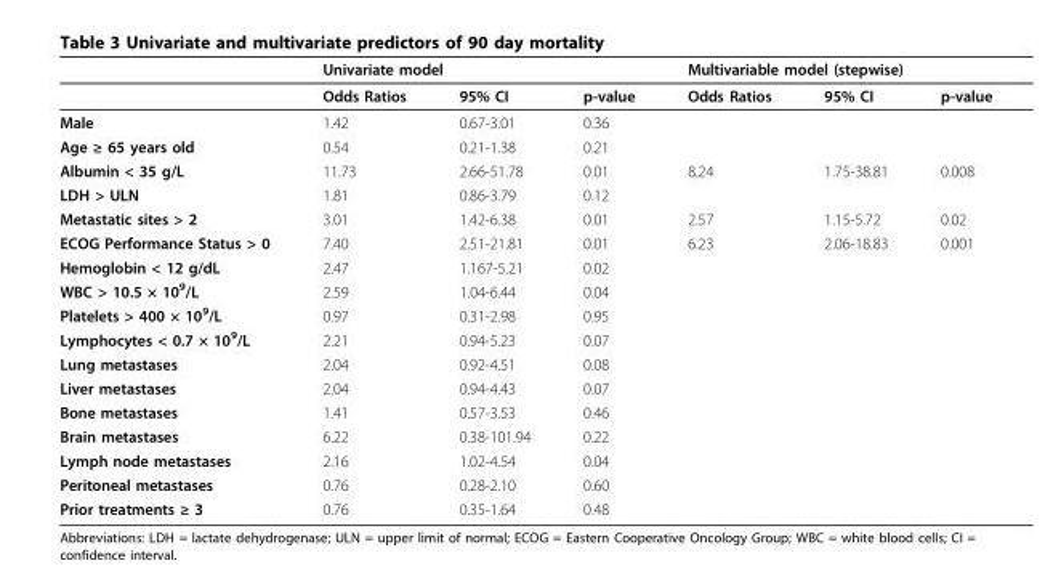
<table><thead><tr><td rowspan="2"></td><td colspan="3">Univariate model</td><td colspan="3">Multivariable model (stepwise)</td></tr><tr><td>Odds Ratios</td><td>95% CI</td><td>p-value</td><td>Odds Ratios</td><td>95% CI</td><td>p-value</td></tr></thead><tbody><tr><td>Male</td><td>1.42</td><td>0.67-3.01</td><td>0.36</td><td></td><td></td><td></td></tr><tr><td>Age ≥ 65 years old</td><td>0.54</td><td>0.21-1.38</td><td>0.21</td><td></td><td></td><td></td></tr><tr><td>Albumin &lt; 35 g/L</td><td>11.73</td><td>2.66-51.78</td><td>0.01</td><td>8.24</td><td>1.75-38.81</td><td>0.008</td></tr><tr><td>LDH &gt; ULN</td><td>1.81</td><td>0.86-3.79</td><td>0.12</td><td></td><td></td><td></td></tr><tr><td>Metastatic sites &gt; 2</td><td>3.01</td><td>1.42-6.38</td><td>0.01</td><td>2.57</td><td>1.15-5.72</td><td>0.02</td></tr><tr><td>ECOG Performance Status &gt; 0</td><td>7.40</td><td>2.51-21.81</td><td>0.01</td><td>6.23</td><td>2.06-18.83</td><td>0.001</td></tr><tr><td>Hemoglobin &lt; 12 g/dL</td><td>2.47</td><td>1.167-5.21</td><td>0.02</td><td></td><td></td><td></td></tr><tr><td>WBC &gt; 10.5 × 10<sup>9</sup>/L</td><td>2.59</td><td>1.04-6.44</td><td>0.04</td><td></td><td></td><td></td></tr><tr><td>Platelets &gt; 400 × 10<sup>9</sup>/L</td><td>0.97</td><td>0.31-2.98</td><td>0.95</td><td></td><td></td><td></td></tr><tr><td>Lymphocytes &lt; 0.7 × 10<sup>9</sup>/L</td><td>2.21</td><td>0.94-5.23</td><td>0.07</td><td></td><td></td><td></td></tr><tr><td>Lung metastases</td><td>2.04</td><td>0.92-4.51</td><td>0.08</td><td></td><td></td><td></td></tr><tr><td>Liver metastases</td><td>2.04</td><td>0.94-4.43</td><td>0.07</td><td></td><td></td><td></td></tr><tr><td>Bone metastases</td><td>1.41</td><td>0.57-3.53</td><td>0.46</td><td></td><td></td><td></td></tr><tr><td>Brain metastases</td><td>6.22</td><td>0.38-101.94</td><td>0.22</td><td></td><td></td><td></td></tr><tr><td>Lymph node metastases</td><td>2.16</td><td>1.02-4.54</td><td>0.04</td><td></td><td></td><td></td></tr><tr><td>Peritoneal metastases</td><td>0.76</td><td>0.28-2.10</td><td>0.60</td><td></td><td></td><td></td></tr><tr><td>Prior treatments ≥ 3</td><td>0.76</td><td>0.35-1.64</td><td>0.48</td><td></td><td></td><td></td></tr></tbody></table>